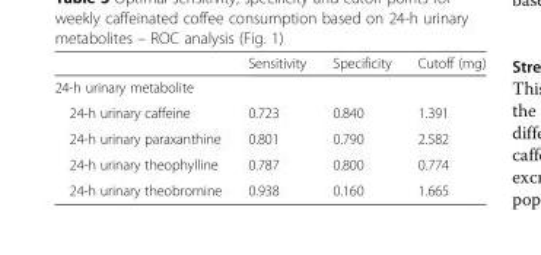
<table><thead><tr><td></td><td>Sensitivity</td><td>Specificity</td><td>Cutoff (mg)</td></tr></thead><tbody><tr><td colspan="4">24-h urinary metabolite</td></tr><tr><td>24-h urinary caffeine</td><td>0.723</td><td>0.840</td><td>1.391</td></tr><tr><td>24-h urinary paraxanthine</td><td>0.801</td><td>0.790</td><td>2.582</td></tr><tr><td>24-h urinary theophylline</td><td>0.787</td><td>0.800</td><td>0.774</td></tr><tr><td>24-h urinary theobromine</td><td>0.938</td><td>0.160</td><td>1.665</td></tr></tbody></table>